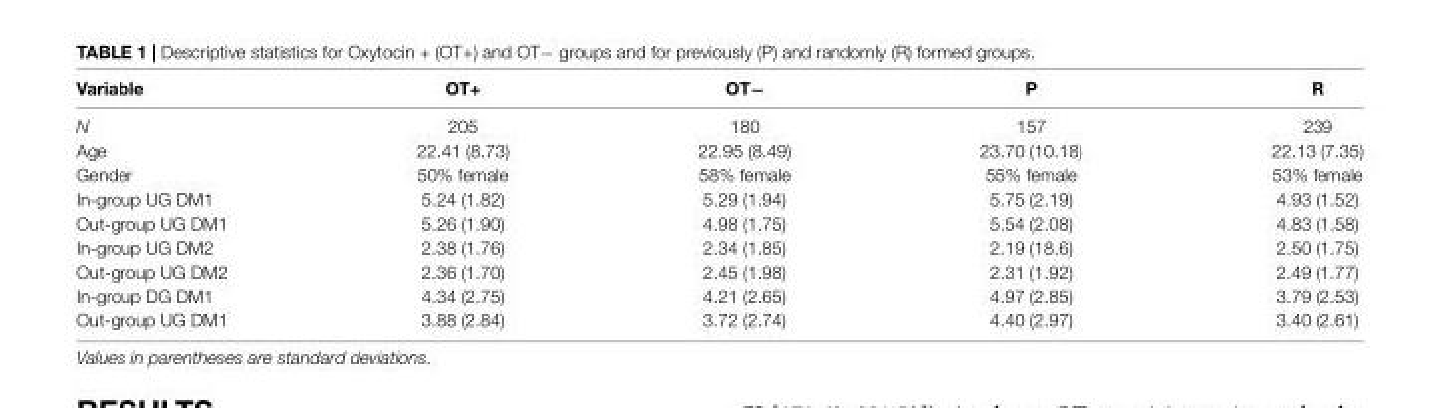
<table><thead><tr><td>Variable</td><td>OT+</td><td>OT−</td><td>P</td><td>R</td></tr></thead><tbody><tr><td>N</td><td>205</td><td>180</td><td>157</td><td>239</td></tr><tr><td>Age</td><td>22.41 (8.73)</td><td>22.95 (8.49)</td><td>23.70 (10.18)</td><td>22.13 (7.35)</td></tr><tr><td>Gender</td><td>50% female</td><td>58% female</td><td>55% female</td><td>53% female</td></tr><tr><td>In-group UG DM1</td><td>5.24 (1.82)</td><td>5.29 (1.94)</td><td>5.75 (2.19)</td><td>4.93 (1.52)</td></tr><tr><td>Out-group UG DM1</td><td>5.26 (1.90)</td><td>4.98 (1.75)</td><td>5.54 (2.08)</td><td>4.83 (1.58)</td></tr><tr><td>In-group UG DM2</td><td>2.38 (1.76)</td><td>2.34 (1.85)</td><td>2.19 (18.6)</td><td>2.50 (1.75)</td></tr><tr><td>Out-group UG DM2</td><td>2.36 (1.70)</td><td>2.45 (1.98)</td><td>2.31 (1.92)</td><td>2.49 (1.77)</td></tr><tr><td>In-group DG DM1</td><td>4.34 (2.75)</td><td>4.21 (2.65)</td><td>4.97 (2.85)</td><td>3.79 (2.53)</td></tr><tr><td>Out-group UG DM1</td><td>3.88 (2.84)</td><td>3.72 (2.74)</td><td>4.40 (2.97)</td><td>3.40 (2.61)</td></tr></tbody></table>